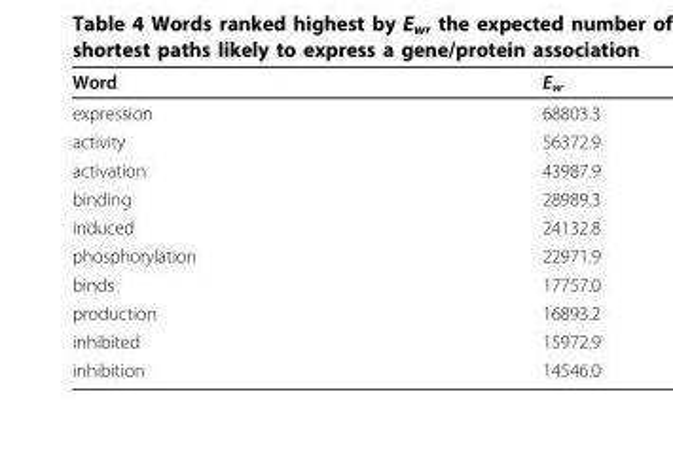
<table><thead><tr><td>Word</td><td>E<sub>w</sub></td></tr></thead><tbody><tr><td>expression</td><td>68803.3</td></tr><tr><td>activity</td><td>56372.9</td></tr><tr><td>activation</td><td>43987.9</td></tr><tr><td>binding</td><td>28989.3</td></tr><tr><td>induced</td><td>24132.8</td></tr><tr><td>phosphorylation</td><td>22971.9</td></tr><tr><td>binds</td><td>17757.0</td></tr><tr><td>production</td><td>16893.2</td></tr><tr><td>inhibited</td><td>15972.9</td></tr><tr><td>inhibition</td><td>14546.0</td></tr></tbody></table>